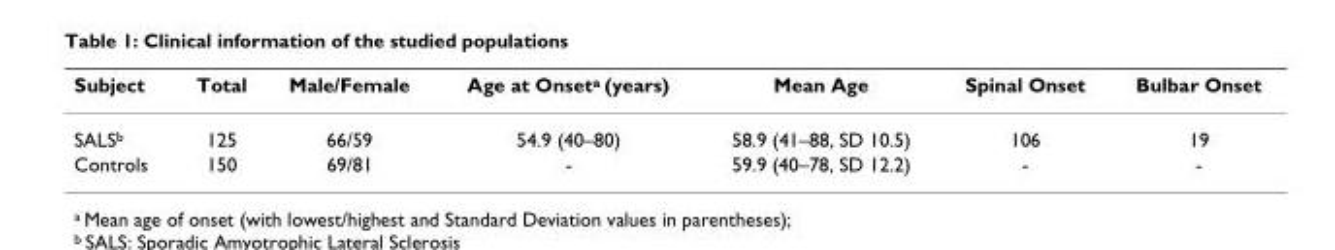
<table><thead><tr><td>Subject</td><td>Total</td><td>Male/Female</td><td>Age at Onset<sup>a</sup> (years)</td><td>Mean Age</td><td>Spinal Onset</td><td>Bulbar Onset</td></tr></thead><tbody><tr><td>SALS<sup>b</sup></td><td>125</td><td>66/59</td><td>54.9 (40–80)</td><td>58.9 (41–88, SD 10.5)</td><td>106</td><td>19</td></tr><tr><td>Controls</td><td>150</td><td>69/81</td><td>-</td><td>59.9 (40–78, SD 12.2)</td><td>-</td><td>-</td></tr></tbody></table>